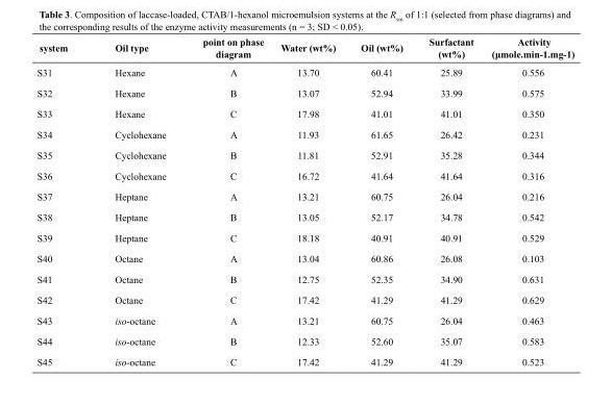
<table><thead><tr><td>Activity (μmole.min-1.mg-1)</td><td>Surfactant (wt%)</td><td>Oil (wt%)</td><td>Water (wt%)</td><td>point on phase diagram</td><td>Oil type</td><td>system</td></tr></thead><tbody><tr><td>0.556</td><td>25.89</td><td>60.41</td><td>13.70</td><td>A</td><td>Hexane</td><td>S31</td></tr><tr><td>0.575</td><td>33.99</td><td>52.94</td><td>13.07</td><td>B</td><td>Hexane</td><td>S32</td></tr><tr><td>0.350</td><td>41.01</td><td>41.01</td><td>17.98</td><td>C</td><td>Hexane</td><td>S33</td></tr><tr><td>0.231</td><td>26.42</td><td>61.65</td><td>11.93</td><td>A</td><td>Cyclohexane</td><td>S34</td></tr><tr><td>0.344</td><td>35.28</td><td>52.91</td><td>11.81</td><td>B</td><td>Cyclohexane</td><td>S35</td></tr><tr><td>0.316</td><td>41.64</td><td>41.64</td><td>16.72</td><td>C</td><td>Cyclohexane</td><td>S36</td></tr><tr><td>0.216</td><td>26.04</td><td>60.75</td><td>13.21</td><td>A</td><td>Heptane</td><td>S37</td></tr><tr><td>0.542</td><td>34.78</td><td>52.17</td><td>13.05</td><td>B</td><td>Heptane</td><td>S38</td></tr><tr><td>0.529</td><td>40.91</td><td>40.91</td><td>18.18</td><td>C</td><td>Heptane</td><td>S39</td></tr><tr><td>0.103</td><td>26.08</td><td>60.86</td><td>13.04</td><td>A</td><td>Octane</td><td>S40</td></tr><tr><td>0.631</td><td>34.90</td><td>52.35</td><td>12.75</td><td>B</td><td>Octane</td><td>S41</td></tr><tr><td>0.629</td><td>41.29</td><td>41.29</td><td>17.42</td><td>C</td><td>Octane</td><td>S42</td></tr><tr><td>0.463</td><td>26.04</td><td>60.75</td><td>13.21</td><td>A</td><td>iso-octane</td><td>S43</td></tr><tr><td>0.583</td><td>35.07</td><td>52.60</td><td>12.33</td><td>B</td><td>iso-octane</td><td>S44</td></tr><tr><td>0.523</td><td>41.29</td><td>41.29</td><td>17.42</td><td>C</td><td>iso-octane</td><td>S45</td></tr></tbody></table>